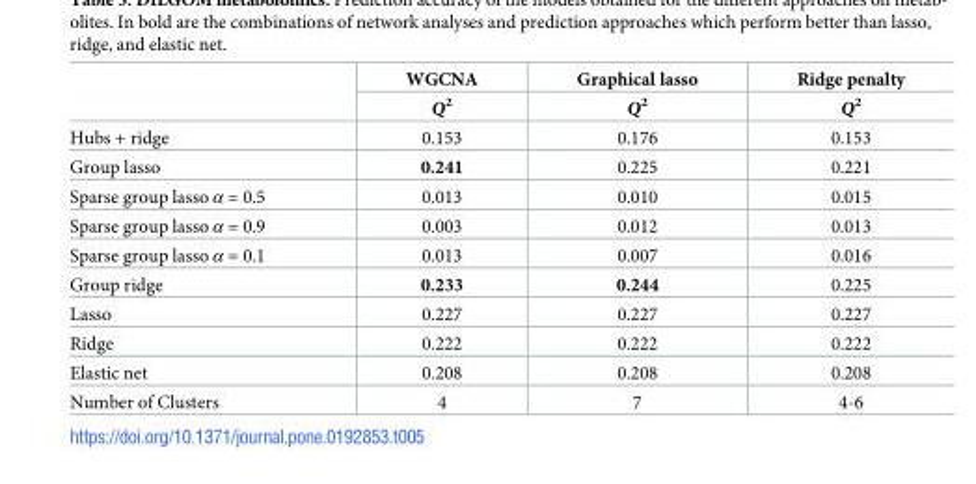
<table><thead><tr><td rowspan="2"></td><td rowspan="2">WGCNA Q<sup>2</sup></td><td rowspan="2">Graphical lasso Q<sup>2</sup></td><td rowspan="2">Ridge penalty Q<sup>2</sup></td></tr><tr></tr></thead><tbody><tr><td>Hubs + ridge</td><td>0.153</td><td>0.176</td><td>0.153</td></tr><tr><td>Group lasso</td><td>0.241</td><td>0.225</td><td>0.221</td></tr><tr><td>Sparse group lasso α = 0.5</td><td>0.013</td><td>0.010</td><td>0.015</td></tr><tr><td>Sparse group lasso α = 0.9</td><td>0.003</td><td>0.012</td><td>0.013</td></tr><tr><td>Sparse group lasso α = 0.1</td><td>0.013</td><td>0.007</td><td>0.016</td></tr><tr><td>Group ridge</td><td>0.233</td><td>0.244</td><td>0.225</td></tr><tr><td>Lasso</td><td>0.227</td><td>0.227</td><td>0.227</td></tr><tr><td>Ridge</td><td>0.222</td><td>0.222</td><td>0.222</td></tr><tr><td>Elastic net</td><td>0.208</td><td>0.208</td><td>0.208</td></tr><tr><td>Number of Clusters</td><td>4</td><td>7</td><td>4-6</td></tr></tbody></table>